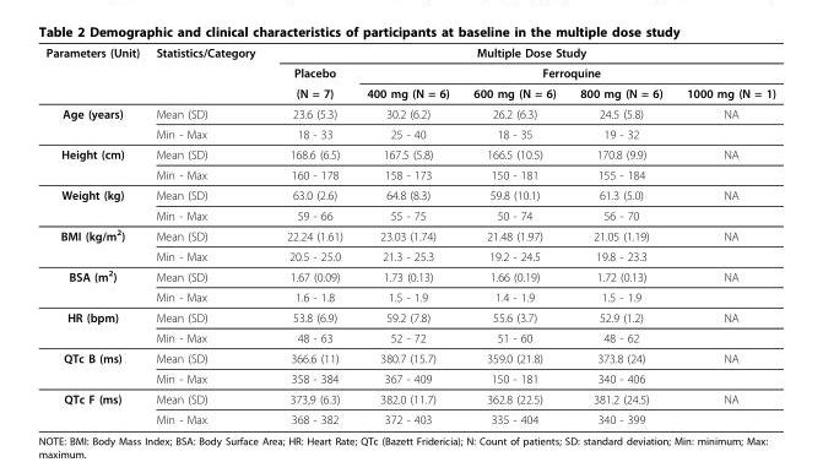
<table><thead><tr><td rowspan="3">Parameters (Unit)</td><td rowspan="3">Statistics/Category</td><td colspan="5">Multiple Dose Study</td></tr><tr><td rowspan="2">Placebo (N = 7)</td><td colspan="4">Ferroquine</td></tr><tr><td>400 mg (N = 6)</td><td>600 mg (N = 6)</td><td>800 mg (N = 6)</td><td>1000 mg (N = 1)</td></tr></thead><tbody><tr><td rowspan="2">Age (years)</td><td>Mean (SD)</td><td>23.6 (5.3)</td><td>30.2 (6.2)</td><td>26.2 (6.3)</td><td>24.5 (5.8)</td><td>NA</td></tr><tr><td>Min - Max</td><td>18 - 33</td><td>25 - 40</td><td>18 - 35</td><td>19 - 32</td><td></td></tr><tr><td rowspan="2">Height (cm)</td><td>Mean (SD)</td><td>168.6 (6.5)</td><td>167.5 (5.8)</td><td>166.5 (10.5)</td><td>170.8 (9.9)</td><td>NA</td></tr><tr><td>Min - Max</td><td>160 - 178</td><td>158 - 173</td><td>150 - 181</td><td>155 - 184</td><td></td></tr><tr><td rowspan="2">Weight (kg)</td><td>Mean (SD)</td><td>63.0 (2.6)</td><td>64.8 (8.3)</td><td>59.8 (10.1)</td><td>61.3 (5.0)</td><td>NA</td></tr><tr><td>Min - Max</td><td>59 - 66</td><td>55 - 75</td><td>50 - 74</td><td>56 - 70</td><td></td></tr><tr><td rowspan="2">BMI (kg/m<sup>2</sup>)</td><td>Mean (SD)</td><td>22.24 (1.61)</td><td>23.03 (1.74)</td><td>21.48 (1.97)</td><td>21.05 (1.19)</td><td>NA</td></tr><tr><td>Min - Max</td><td>20.5 - 25.0</td><td>21.3 - 25.3</td><td>19.2 - 24.5</td><td>19.8 - 23.3</td><td></td></tr><tr><td rowspan="2">BSA (m<sup>2</sup>)</td><td>Mean (SD)</td><td>1.67 (0.09)</td><td>1.73 (0.13)</td><td>1.66 (0.19)</td><td>1.72 (0.13)</td><td>NA</td></tr><tr><td>Min - Max</td><td>1.6 - 1.8</td><td>1.5 - 1.9</td><td>1.4 - 1.9</td><td>1.5 - 1.9</td><td></td></tr><tr><td rowspan="2">HR (bpm)</td><td>Mean (SD)</td><td>53.8 (6.9)</td><td>59.2 (7.8)</td><td>55.6 (3.7)</td><td>52.9 (1.2)</td><td>NA</td></tr><tr><td>Min - Max</td><td>48 - 63</td><td>52 - 72</td><td>51 - 60</td><td>48 - 62</td><td></td></tr><tr><td rowspan="2">QTc B (ms)</td><td>Mean (SD)</td><td>366.6 (11)</td><td>380.7 (15.7)</td><td>359.0 (21.8)</td><td>373.8 (24)</td><td>NA</td></tr><tr><td>Min - Max</td><td>358 - 384</td><td>367 - 409</td><td>150 - 181</td><td>340 - 406</td><td></td></tr><tr><td rowspan="2">QTc F (ms)</td><td>Mean (SD)</td><td>373,9 (6.3)</td><td>382.0 (11.7)</td><td>362.8 (22.5)</td><td>381.2 (24.5)</td><td>NA</td></tr><tr><td>Min - Max</td><td>368 - 382</td><td>372 - 403</td><td>335 - 404</td><td>340 - 399</td><td></td></tr></tbody></table>